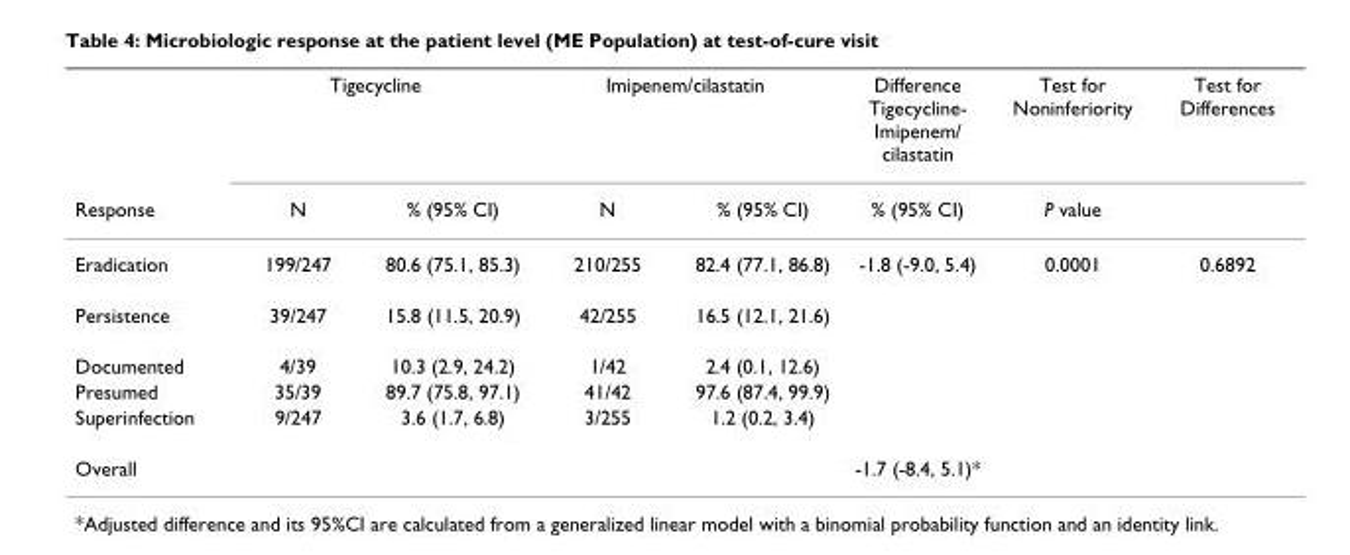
<table><thead><tr><td rowspan="2">Response</td><td colspan="2">Tigecycline</td><td colspan="2">Imipenem/cilastatin</td><td rowspan="2">Difference Tigecycline- Imipenem/ cilastatin % (95% CI)</td><td rowspan="2">Test for Noninferiority P value</td><td rowspan="2">Test for Differences</td></tr><tr><td>N</td><td>% (95% CI)</td><td>N</td><td>% (95% CI)</td></tr></thead><tbody><tr><td>Eradication</td><td>199/247</td><td>80.6 (75.1, 85.3)</td><td>210/255</td><td>82.4 (77.1, 86.8)</td><td>-1.8 (-9.0, 5.4)</td><td>0.0001</td><td>0.6892</td></tr><tr><td>Persistence</td><td>39/247</td><td>15.8 (11.5, 20.9)</td><td>42/255</td><td>16.5 (12.1, 21.6)</td><td></td><td></td><td></td></tr><tr><td>Documented</td><td>4/39</td><td>10.3 (2.9, 24.2)</td><td>1/42</td><td>2.4 (0.1, 12.6)</td><td></td><td></td><td></td></tr><tr><td>Presumed</td><td>35/39</td><td>89.7 (75.8, 97.1)</td><td>41/42</td><td>97.6 (87.4, 99.9)</td><td></td><td></td><td></td></tr><tr><td>Superinfection</td><td>9/247</td><td>3.6 (1.7, 6.8)</td><td>3/255</td><td>1.2 (0.2, 3.4)</td><td></td><td></td><td></td></tr><tr><td>Overall</td><td></td><td></td><td></td><td></td><td>-1.7 (-8.4, 5.1)*</td><td></td><td></td></tr></tbody></table>